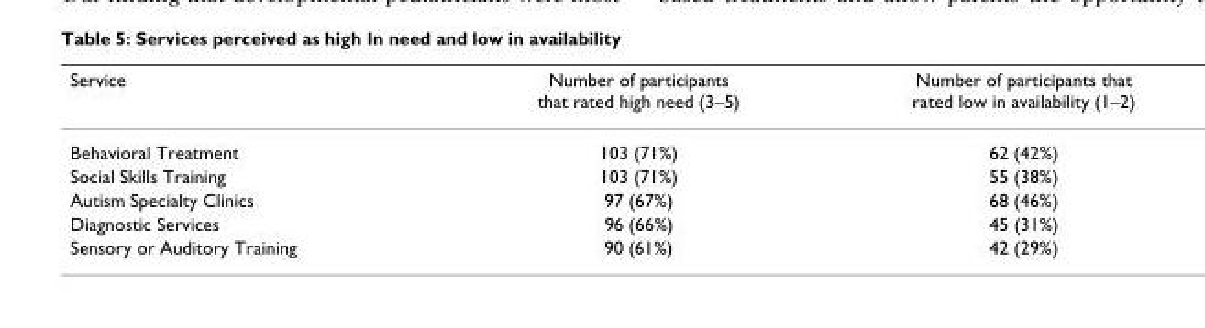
<table><thead><tr><td>Service</td><td>Number of participants that rated high need (3–5)</td><td>Number of participants that rated low in availability (1–2)</td></tr></thead><tbody><tr><td>Behavioral Treatment</td><td>103 (71%)</td><td>62 (42%)</td></tr><tr><td>Social Skills Training</td><td>103 (71%)</td><td>55 (38%)</td></tr><tr><td>Autism Specialty Clinics</td><td>97 (67%)</td><td>68 (46%)</td></tr><tr><td>Diagnostic Services</td><td>96 (66%)</td><td>45 (31%)</td></tr><tr><td>Sensory or Auditory Training</td><td>90 (61%)</td><td>42 (29%)</td></tr></tbody></table>